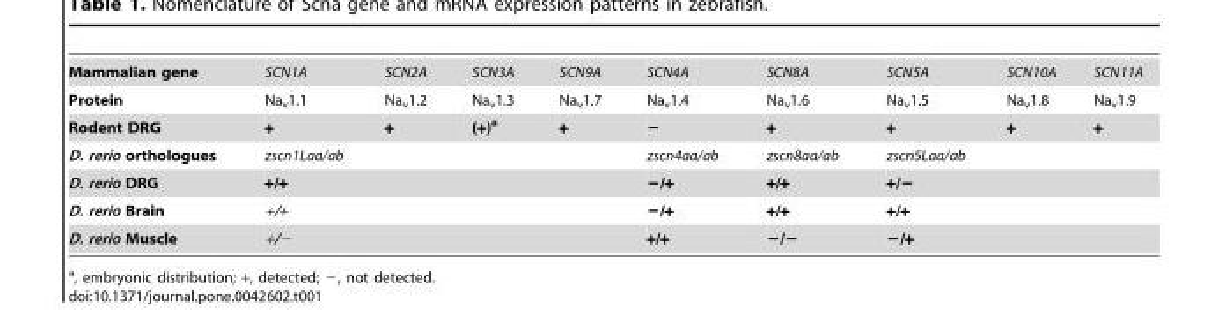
<table><tbody><tr><td>Mammalian gene</td><td>SCN1A</td><td>SCN2A</td><td>SCN3A</td><td>SCN9A</td><td>SCN4A</td><td>SCN8A</td><td>SCN5A</td><td>SCN10A</td><td>SCN11A</td></tr><tr><td>Protein</td><td>Na<sub>v</sub>1.1</td><td>Na<sub>v</sub>1.2</td><td>Na<sub>v</sub>1.3</td><td>Na<sub>v</sub>1.7</td><td>Na<sub>v</sub>1.4</td><td>Na<sub>v</sub>1.6</td><td>Na<sub>v</sub>1.5</td><td>Na<sub>v</sub>1.8</td><td>Na<sub>v</sub>1.9</td></tr><tr><td>Rodent DRG</td><td>+</td><td>+</td><td>(+)a</td><td>+</td><td>−</td><td>+</td><td>+</td><td>+</td><td>+</td></tr><tr><td>D. rerio orthologues</td><td colspan="4">zscn1Laa/ab</td><td>zscn4aa/ab</td><td>zscn8aa/ab</td><td colspan="3">zscn5Laa/ab</td></tr><tr><td>D. rerio DRG</td><td colspan="4">+/+</td><td>−/+</td><td>+/+</td><td colspan="3">+/−</td></tr><tr><td>D. rerio Brain</td><td colspan="4">+/+</td><td>−/+</td><td>+/+</td><td colspan="3">+/+</td></tr><tr><td>D. rerio Muscle</td><td colspan="4">+/−</td><td>+/+</td><td>−/−</td><td colspan="3">−/+</td></tr></tbody></table>